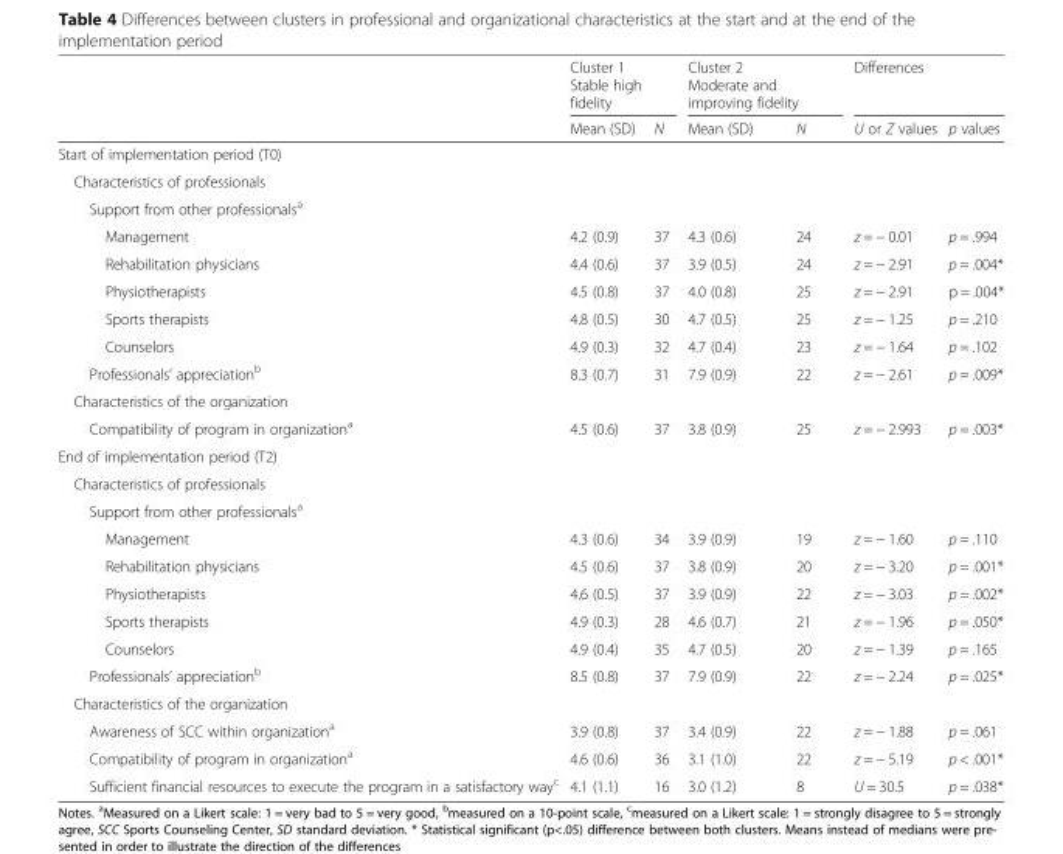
<table><thead><tr><td rowspan="2"></td><td colspan="2">Cluster 1 Stable high fidelity</td><td colspan="2">Cluster 2 Moderate and improving fidelity</td><td colspan="2">Differences</td></tr><tr><td>Mean (SD)</td><td>N</td><td>Mean (SD)</td><td>N</td><td>U or Z values</td><td>p values</td></tr></thead><tbody><tr><td colspan="7">Start of implementation period (T0)</td></tr><tr><td colspan="7">Characteristics of professionals</td></tr><tr><td colspan="7">Support from other professionals<sup>a</sup></td></tr><tr><td>Management</td><td>4.2 (0.9)</td><td>37</td><td>4.3 (0.6)</td><td>24</td><td>z = − 0.01</td><td>p = .994</td></tr><tr><td>Rehabilitation physicians</td><td>4.4 (0.6)</td><td>37</td><td>3.9 (0.5)</td><td>24</td><td>z = − 2.91</td><td>p = .004*</td></tr><tr><td>Physiotherapists</td><td>4.5 (0.8)</td><td>37</td><td>4.0 (0.8)</td><td>25</td><td>z = − 2.91</td><td>p = .004*</td></tr><tr><td>Sports therapists</td><td>4.8 (0.5)</td><td>30</td><td>4.7 (0.5)</td><td>25</td><td>z = − 1.25</td><td>p = .210</td></tr><tr><td>Counselors</td><td>4.9 (0.3)</td><td>32</td><td>4.7 (0.4)</td><td>23</td><td>z = − 1.64</td><td>p = .102</td></tr><tr><td>Professionals’ appreciation<sup>b</sup></td><td>8.3 (0.7)</td><td>31</td><td>7.9 (0.9)</td><td>22</td><td>z = − 2.61</td><td>p = .009*</td></tr><tr><td colspan="7">Characteristics of the organization</td></tr><tr><td>Compatibility of program in organization<sup>a</sup></td><td>4.5 (0.6)</td><td>37</td><td>3.8 (0.9)</td><td>25</td><td>z = − 2.993</td><td>p = .003*</td></tr><tr><td colspan="7">End of implementation period (T2)</td></tr><tr><td colspan="7">Characteristics of professionals</td></tr><tr><td colspan="7">Support from other professionals<sup>a</sup></td></tr><tr><td>Management</td><td>4.3 (0.6)</td><td>34</td><td>3.9 (0.9)</td><td>19</td><td>z = − 1.60</td><td>p = .110</td></tr><tr><td>Rehabilitation physicians</td><td>4.5 (0.6)</td><td>37</td><td>3.8 (0.9)</td><td>20</td><td>z = − 3.20</td><td>p = .001*</td></tr><tr><td>Physiotherapists</td><td>4.6 (0.5)</td><td>37</td><td>3.9 (0.9)</td><td>22</td><td>z = − 3.03</td><td>p = .002*</td></tr><tr><td>Sports therapists</td><td>4.9 (0.3)</td><td>28</td><td>4.6 (0.7)</td><td>21</td><td>z = − 1.96</td><td>p = .050*</td></tr><tr><td>Counselors</td><td>4.9 (0.4)</td><td>35</td><td>4.7 (0.5)</td><td>20</td><td>z = − 1.39</td><td>p = .165</td></tr><tr><td>Professionals’ appreciation<sup>b</sup></td><td>8.5 (0.8)</td><td>37</td><td>7.9 (0.9)</td><td>22</td><td>z = − 2.24</td><td>p = .025*</td></tr><tr><td colspan="7">Characteristics of the organization</td></tr><tr><td>Awareness of SCC within organization<sup>a</sup></td><td>3.9 (0.8)</td><td>37</td><td>3.4 (0.9)</td><td>22</td><td>z = − 1.88</td><td>p = .061</td></tr><tr><td>Compatibility of program in organization<sup>a</sup></td><td>4.6 (0.6)</td><td>36</td><td>3.1 (1.0)</td><td>22</td><td>z = − 5.19</td><td>p &lt; .001*</td></tr><tr><td>Sufficient financial resources to execute the program in a satisfactory way<sup>c</sup></td><td>4.1 (1.1)</td><td>16</td><td>3.0 (1.2)</td><td>8</td><td>U = 30.5</td><td>p = .038*</td></tr></tbody></table>